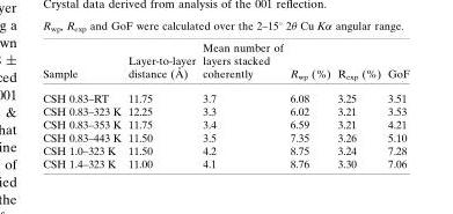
<table><thead><tr><td>Sample</td><td>Layer-to-layer distance (A˚ )</td><td>Mean number of layers stacked coherently</td><td>R<sub>wp</sub> (%)</td><td>R<sub>exp</sub> (%)</td><td>GoF</td></tr></thead><tbody><tr><td>CSH 0.83–RT</td><td>11.75</td><td>3.7</td><td>6.08</td><td>3.25</td><td>3.51</td></tr><tr><td>CSH 0.83–323 K</td><td>12.25</td><td>3.3</td><td>6.02</td><td>3.21</td><td>3.53</td></tr><tr><td>CSH 0.83–353 K</td><td>11.75</td><td>3.4</td><td>6.59</td><td>3.21</td><td>4.21</td></tr><tr><td>CSH 0.83–443 K</td><td>11.50</td><td>3.5</td><td>7.35</td><td>3.26</td><td>5.10</td></tr><tr><td>CSH 1.0–323 K</td><td>11.50</td><td>4.2</td><td>8.75</td><td>3.24</td><td>7.28</td></tr><tr><td>CSH 1.4–323 K</td><td>11.00</td><td>4.1</td><td>8.76</td><td>3.30</td><td>7.06</td></tr></tbody></table>